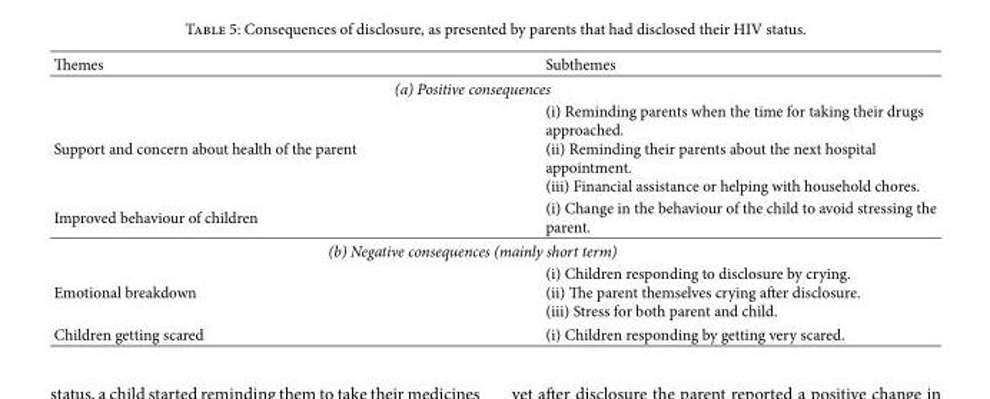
<table><thead><tr><td>Themes</td><td>Subthemes</td></tr></thead><tbody><tr><td colspan="2">(a) Positive consequences</td></tr><tr><td>Support and concern about health of the parent</td><td>(i) Reminding parents when the time for taking their drugs approached. (ii) Reminding their parents about the next hospital appointment. (iii) Financial assistance or helping with household chores.</td></tr><tr><td>Improved behaviour of children</td><td>(i) Change in the behaviour of the child to avoid stressing the parent.</td></tr><tr><td colspan="2">(b) Negative consequences (mainly short term)</td></tr><tr><td>Emotional breakdown</td><td>(i) Children responding to disclosure by crying. (ii) The parent themselves crying after disclosure. (iii) Stress for both parent and child.</td></tr><tr><td>Children getting scared</td><td>(i) Children responding by getting very scared.</td></tr></tbody></table>